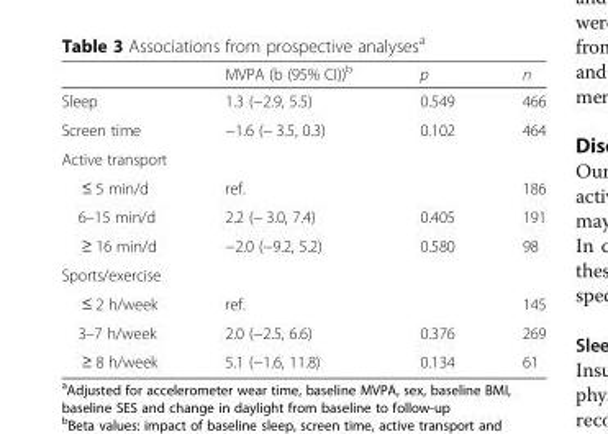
<table><thead><tr><td></td><td>MVPA (b (95% CI))<sup>b</sup></td><td>p</td><td>n</td></tr></thead><tbody><tr><td>Sleep</td><td>1.3 (−2.9, 5.5)</td><td>0.549</td><td>466</td></tr><tr><td>Screen time</td><td>−1.6 (− 3.5, 0.3)</td><td>0.102</td><td>464</td></tr><tr><td colspan="4">Active transport</td></tr><tr><td>≤ 5 min/d</td><td>ref.</td><td></td><td>186</td></tr><tr><td>6–15 min/d</td><td>2.2 (− 3.0, 7.4)</td><td>0.405</td><td>191</td></tr><tr><td>≥ 16 min/d</td><td>−2.0 (−9.2, 5.2)</td><td>0.580</td><td>98</td></tr><tr><td colspan="4">Sports/exercise</td></tr><tr><td>≤ 2 h/week</td><td>ref.</td><td></td><td>145</td></tr><tr><td>3–7 h/week</td><td>2.0 (−2.5, 6.6)</td><td>0.376</td><td>269</td></tr><tr><td>≥ 8 h/week</td><td>5.1 (−1.6, 11.8)</td><td>0.134</td><td>61</td></tr></tbody></table>